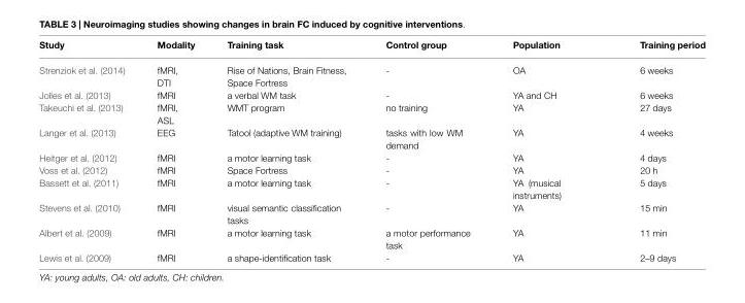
<table><thead><tr><td>Study</td><td>Modality</td><td>Training task</td><td>Control group</td><td>Population</td><td>Training period</td></tr></thead><tbody><tr><td>Strenziok et al. (2014)</td><td>fMRI, DTI</td><td>Rise of Nations, Brain Fitness, Space Fortress</td><td>-</td><td>OA</td><td>6 weeks</td></tr><tr><td>Jolles et al. (2013)</td><td>fMRI</td><td>a verbal WM task</td><td>-</td><td>YA and CH</td><td>6 weeks</td></tr><tr><td>Takeuchi et al. (2013)</td><td>fMRI, ASL</td><td>WMT program</td><td>no training</td><td>YA</td><td>27 days</td></tr><tr><td>Langer et al. (2013)</td><td>EEG</td><td>Tatool (adaptive WM training)</td><td>tasks with low WM demand</td><td>YA</td><td>4 weeks</td></tr><tr><td>Heitger et al. (2012)</td><td>fMRI</td><td>a motor learning task</td><td>-</td><td>YA</td><td>4 days</td></tr><tr><td>Voss et al. (2012)</td><td>fMRI</td><td>Space Fortress</td><td>-</td><td>YA</td><td>20 h</td></tr><tr><td>Bassett et al. (2011)</td><td>fMRI</td><td>a motor learning task</td><td>-</td><td>YA (musical instruments)</td><td>5 days</td></tr><tr><td>Stevens et al. (2010)</td><td>fMRI</td><td>visual semantic classification tasks</td><td>-</td><td>YA</td><td>15 min</td></tr><tr><td>Albert et al. (2009)</td><td>fMRI</td><td>a motor learning task</td><td>a motor performance task</td><td>YA</td><td>11 min</td></tr><tr><td>Lewis et al. (2009)</td><td>fMRI</td><td>a shape-identification task</td><td>-</td><td>YA</td><td>2–9 days</td></tr></tbody></table>